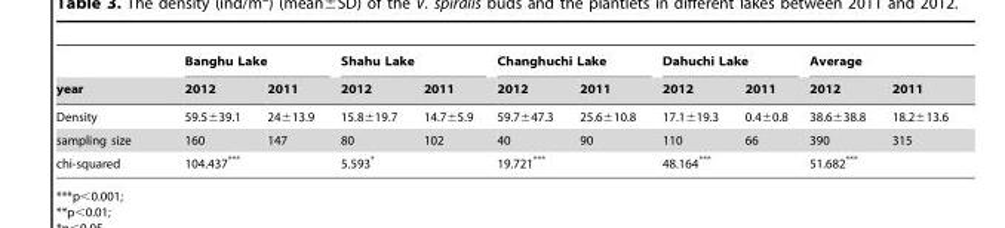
<table><thead><tr><td rowspan="2">year</td><td colspan="2">Banghu Lake</td><td colspan="2">Shahu Lake</td><td colspan="2">Changhuchi Lake</td><td colspan="2">Dahuchi Lake</td><td colspan="2">Average</td></tr><tr><td>2012</td><td>2011</td><td>2012</td><td>2011</td><td>2012</td><td>2011</td><td>2012</td><td>2011</td><td>2012</td><td>2011</td></tr></thead><tbody><tr><td>Density</td><td>59.5±39.1</td><td>24±13.9</td><td>15.8±19.7</td><td>14.7±5.9</td><td>59.7±47.3</td><td>25.6±10.8</td><td>17.1±19.3</td><td>0.4±0.8</td><td>38.6±38.8</td><td>18.2±13.6</td></tr><tr><td>sampling size</td><td>160</td><td>147</td><td>80</td><td>102</td><td>40</td><td>90</td><td>110</td><td>66</td><td>390</td><td>315</td></tr><tr><td>chi-squared</td><td>104.437***</td><td></td><td>5.593*</td><td></td><td>19.721***</td><td></td><td>48.164***</td><td></td><td>51.682***</td><td></td></tr></tbody></table>